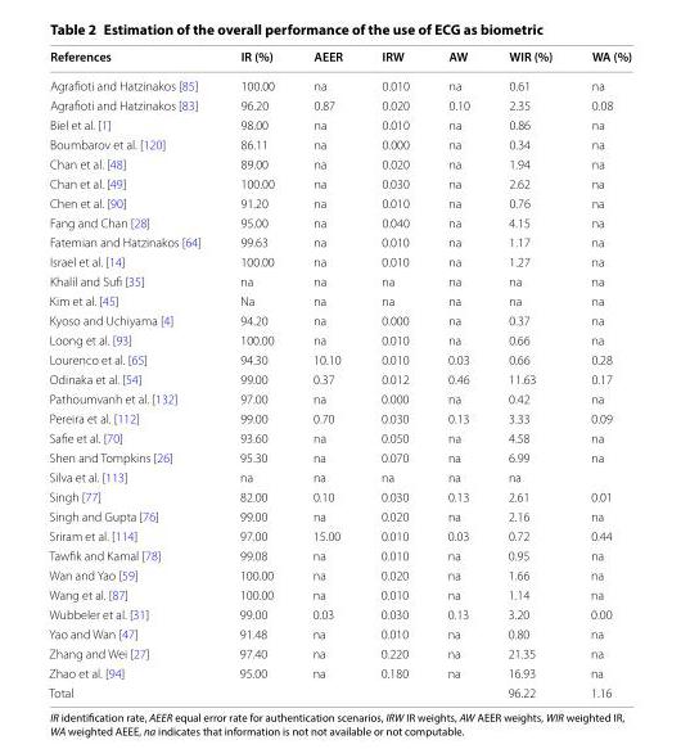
<table><thead><tr><td>References</td><td>IR (%)</td><td>AEER</td><td>IRW</td><td>AW</td><td>WIR (%)</td><td>WA (%)</td></tr></thead><tbody><tr><td>Agrafioti and Hatzinakos [85]</td><td>100.00</td><td>na</td><td>0.010</td><td>na</td><td>0.61</td><td>na</td></tr><tr><td>Agrafioti and Hatzinakos [83]</td><td>96.20</td><td>0.87</td><td>0.020</td><td>0.10</td><td>2.35</td><td>0.08</td></tr><tr><td>Biel et al. [1]</td><td>98.00</td><td>na</td><td>0.010</td><td>na</td><td>0.86</td><td>na</td></tr><tr><td>Boumbarov et al. [120]</td><td>86.11</td><td>na</td><td>0.000</td><td>na</td><td>0.34</td><td>na</td></tr><tr><td>Chan et al. [48]</td><td>89.00</td><td>na</td><td>0.020</td><td>na</td><td>1.94</td><td>na</td></tr><tr><td>Chan et al. [49]</td><td>100.00</td><td>na</td><td>0.030</td><td>na</td><td>2.62</td><td>na</td></tr><tr><td>Chen et al. [90]</td><td>91.20</td><td>na</td><td>0.010</td><td>na</td><td>0.76</td><td>na</td></tr><tr><td>Fang and Chan [28]</td><td>95.00</td><td>na</td><td>0.040</td><td>na</td><td>4.15</td><td>na</td></tr><tr><td>Fatemian and Hatzinakos [64]</td><td>99.63</td><td>na</td><td>0.010</td><td>na</td><td>1.17</td><td>na</td></tr><tr><td>Israel et al. [14]</td><td>100.00</td><td>na</td><td>0.010</td><td>na</td><td>1.27</td><td>na</td></tr><tr><td>Khalil and Sufi [35]</td><td>na</td><td>na</td><td>na</td><td>na</td><td>na</td><td>na</td></tr><tr><td>Kim et al. [45]</td><td>Na</td><td>na</td><td>na</td><td>na</td><td>na</td><td>na</td></tr><tr><td>Kyoso and Uchiyama [4]</td><td>94.20</td><td>na</td><td>0.000</td><td>na</td><td>0.37</td><td>na</td></tr><tr><td>Loong et al. [93]</td><td>100.00</td><td>na</td><td>0.010</td><td>na</td><td>0.66</td><td>na</td></tr><tr><td>Lourenco et al. [65]</td><td>94.30</td><td>10.10</td><td>0.010</td><td>0.03</td><td>0.66</td><td>0.28</td></tr><tr><td>Odinaka et al. [54]</td><td>99.00</td><td>0.37</td><td>0.012</td><td>0.46</td><td>11.63</td><td>0.17</td></tr><tr><td>Pathoumvanh et al. [132]</td><td>97.00</td><td>na</td><td>0.000</td><td>na</td><td>0.42</td><td>na</td></tr><tr><td>Pereira et al. [112]</td><td>99.00</td><td>0.70</td><td>0.030</td><td>0.13</td><td>3.33</td><td>0.09</td></tr><tr><td>Safie et al. [70]</td><td>93.60</td><td>na</td><td>0.050</td><td>na</td><td>4.58</td><td>na</td></tr><tr><td>Shen and Tompkins [26]</td><td>95.30</td><td>na</td><td>0.070</td><td>na</td><td>6.99</td><td>na</td></tr><tr><td>Silva et al. [113]</td><td>na</td><td>na</td><td>na</td><td>na</td><td>na</td><td></td></tr><tr><td>Singh [77]</td><td>82.00</td><td>0.10</td><td>0.030</td><td>0.13</td><td>2.61</td><td>0.01</td></tr><tr><td>Singh and Gupta [76]</td><td>99.00</td><td>na</td><td>0.020</td><td>na</td><td>2.16</td><td>na</td></tr><tr><td>Sriram et al. [114]</td><td>97.00</td><td>15.00</td><td>0.010</td><td>0.03</td><td>0.72</td><td>0.44</td></tr><tr><td>Tawfik and Kamal [78]</td><td>99.08</td><td>na</td><td>0.010</td><td>na</td><td>0.95</td><td>na</td></tr><tr><td>Wan and Yao [59]</td><td>100.00</td><td>na</td><td>0.020</td><td>na</td><td>1.66</td><td>na</td></tr><tr><td>Wang et al. [87]</td><td>100.00</td><td>na</td><td>0.010</td><td>na</td><td>1.14</td><td>na</td></tr><tr><td>Wubbeler et al. [31]</td><td>99.00</td><td>0.03</td><td>0.030</td><td>0.13</td><td>3.20</td><td>0.00</td></tr><tr><td>Yao and Wan [47]</td><td>91.48</td><td>na</td><td>0.010</td><td>na</td><td>0.80</td><td>na</td></tr><tr><td>Zhang and Wei [27]</td><td>97.40</td><td>na</td><td>0.220</td><td>na</td><td>21.35</td><td>na</td></tr><tr><td>Zhao et al. [94]</td><td>95.00</td><td>na</td><td>0.180</td><td>na</td><td>16.93</td><td>na</td></tr><tr><td>Total</td><td></td><td></td><td></td><td></td><td>96.22</td><td>1.16</td></tr></tbody></table>